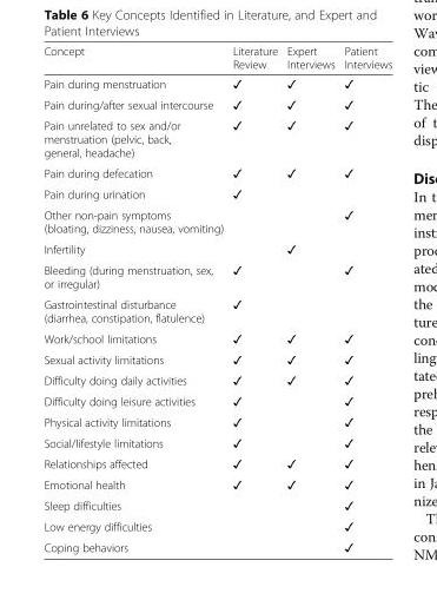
<table><thead><tr><td>Concept</td><td>Literature Review</td><td>Expert Interviews</td><td>Patient Interviews</td></tr></thead><tbody><tr><td>Pain during menstruation</td><td>✓</td><td>✓</td><td>✓</td></tr><tr><td>Pain during/after sexual intercourse</td><td>✓</td><td>✓</td><td>✓</td></tr><tr><td>Pain unrelated to sex and/or menstruation (pelvic, back, general, headache)</td><td>✓</td><td>✓</td><td>✓</td></tr><tr><td>Pain during defecation</td><td>✓</td><td>✓</td><td>✓</td></tr><tr><td>Pain during urination</td><td>✓</td><td></td><td></td></tr><tr><td>Other non-pain symptoms (bloating, dizziness, nausea, vomiting)</td><td></td><td></td><td>✓</td></tr><tr><td>Infertility</td><td></td><td>✓</td><td></td></tr><tr><td>Bleeding (during menstruation, sex, or irregular)</td><td>✓</td><td></td><td>✓</td></tr><tr><td>Gastrointestinal disturbance (diarrhea, constipation, flatulence)</td><td>✓</td><td></td><td></td></tr><tr><td>Work/school limitations</td><td>✓</td><td>✓</td><td>✓</td></tr><tr><td>Sexual activity limitations</td><td>✓</td><td>✓</td><td>✓</td></tr><tr><td>Difficulty doing daily activities</td><td>✓</td><td>✓</td><td>✓</td></tr><tr><td>Difficulty doing leisure activities</td><td>✓</td><td></td><td>✓</td></tr><tr><td>Physical activity limitations</td><td>✓</td><td></td><td>✓</td></tr><tr><td>Social/lifestyle limitations</td><td>✓</td><td></td><td>✓</td></tr><tr><td>Relationships affected</td><td>✓</td><td>✓</td><td>✓</td></tr><tr><td>Emotional health</td><td>✓</td><td>✓</td><td>✓</td></tr><tr><td>Sleep difficulties</td><td></td><td></td><td>✓</td></tr><tr><td>Low energy difficulties</td><td></td><td></td><td>✓</td></tr><tr><td>Coping behaviors</td><td></td><td></td><td>✓</td></tr></tbody></table>